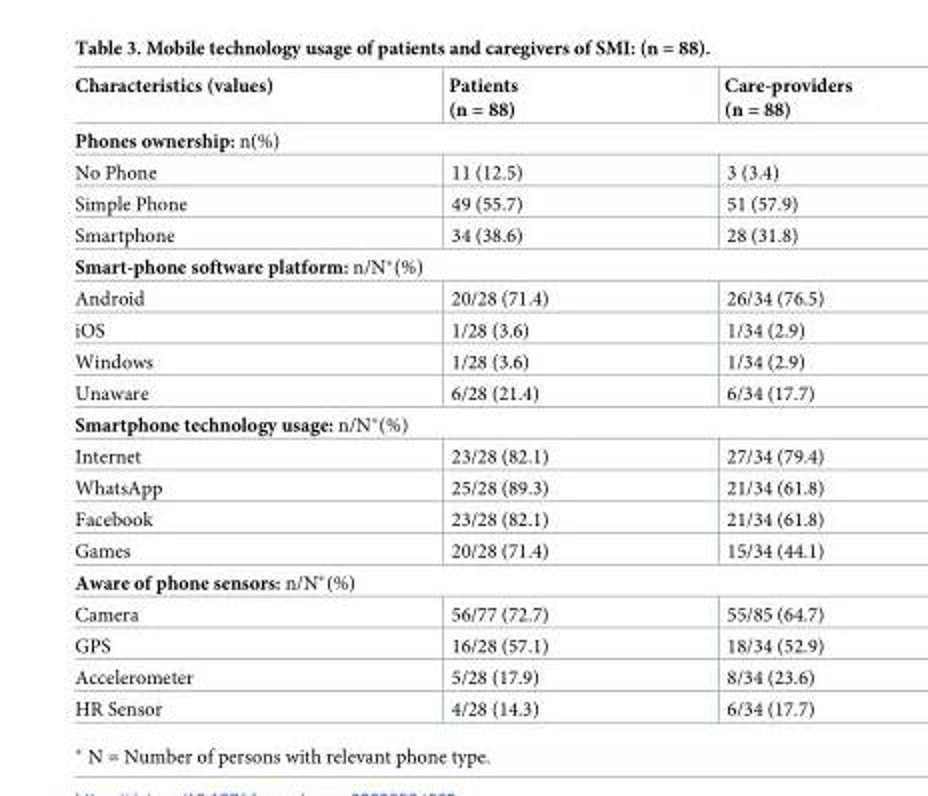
<table><thead><tr><td>Characteristics (values)</td><td>Patients (n = 88)</td><td>Care-providers (n = 88)</td></tr></thead><tbody><tr><td colspan="3">Phones ownership: n(%)</td></tr><tr><td>No Phone</td><td>11 (12.5)</td><td>3 (3.4)</td></tr><tr><td>Simple Phone</td><td>49 (55.7)</td><td>51 (57.9)</td></tr><tr><td>Smartphone</td><td>34 (38.6)</td><td>28 (31.8)</td></tr><tr><td colspan="3">Smart-phone software platform: n/N*(%)</td></tr><tr><td>Android</td><td>20/28 (71.4)</td><td>26/34 (76.5)</td></tr><tr><td>iOS</td><td>1/28 (3.6)</td><td>1/34 (2.9)</td></tr><tr><td>Windows</td><td>1/28 (3.6)</td><td>1/34 (2.9)</td></tr><tr><td>Unaware</td><td>6/28 (21.4)</td><td>6/34 (17.7)</td></tr><tr><td colspan="3">Smartphone technology usage: n/N*(%)</td></tr><tr><td>Internet</td><td>23/28 (82.1)</td><td>27/34 (79.4)</td></tr><tr><td>WhatsApp</td><td>25/28 (89.3)</td><td>21/34 (61.8)</td></tr><tr><td>Facebook</td><td>23/28 (82.1)</td><td>21/34 (61.8)</td></tr><tr><td>Games</td><td>20/28 (71.4)</td><td>15/34 (44.1)</td></tr><tr><td colspan="3">Aware of phone sensors: n/N*(%)</td></tr><tr><td>Camera</td><td>56/77 (72.7)</td><td>55/85 (64.7)</td></tr><tr><td>GPS</td><td>16/28 (57.1)</td><td>18/34 (52.9)</td></tr><tr><td>Accelerometer</td><td>5/28 (17.9)</td><td>8/34 (23.6)</td></tr><tr><td>HR Sensor</td><td>4/28 (14.3)</td><td>6/34 (17.7)</td></tr></tbody></table>